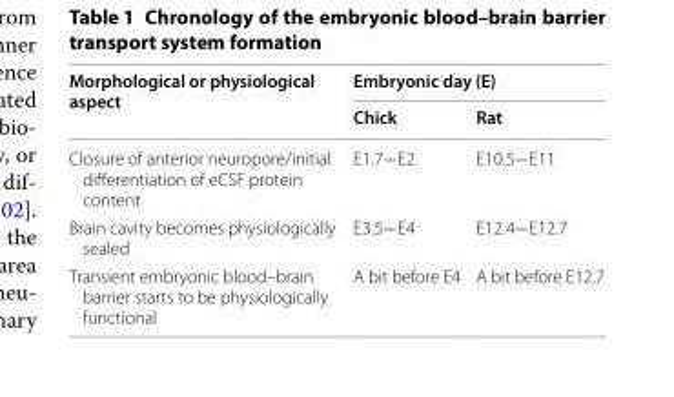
<table><thead><tr><td rowspan="2">Morphological or physiological aspect</td><td colspan="2">Embryonic day (E)</td></tr><tr><td>Chick</td><td>Rat</td></tr></thead><tbody><tr><td>Closure of anterior neuropore/initial differentiation of eCSF protein content</td><td>E1.7−E2</td><td>E10.5−E11</td></tr><tr><td>Brain cavity becomes physiologically sealed</td><td>E3.5−E4</td><td>E12.4−E12.7</td></tr><tr><td>Transient embryonic blood–brain barrier starts to be physiologically functional</td><td>A bit before E4</td><td>A bit before E12.7</td></tr></tbody></table>